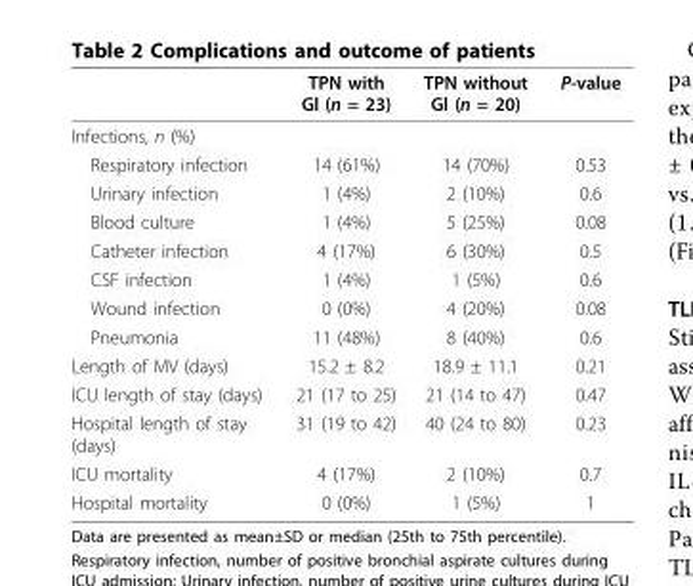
<table><thead><tr><td></td><td>TPN with Gl (n = 23)</td><td>TPN without Gl (n = 20)</td><td>P-value</td></tr></thead><tbody><tr><td colspan="4">Infections, n (%)</td></tr><tr><td>Respiratory infection</td><td>14 (61%)</td><td>14 (70%)</td><td>0.53</td></tr><tr><td>Urinary infection</td><td>1 (4%)</td><td>2 (10%)</td><td>0.6</td></tr><tr><td>Blood culture</td><td>1 (4%)</td><td>5 (25%)</td><td>0.08</td></tr><tr><td>Catheter infection</td><td>4 (17%)</td><td>6 (30%)</td><td>0.5</td></tr><tr><td>CSF infection</td><td>1 (4%)</td><td>1 (5%)</td><td>0.6</td></tr><tr><td>Wound infection</td><td>0 (0%)</td><td>4 (20%)</td><td>0.08</td></tr><tr><td>Pneumonia</td><td>11 (48%)</td><td>8 (40%)</td><td>0.6</td></tr><tr><td>Length of MV (days)</td><td>15.2 ± 8.2</td><td>18.9 ± 11.1</td><td>0.21</td></tr><tr><td>ICU length of stay (days)</td><td>21 (17 to 25)</td><td>21 (14 to 47)</td><td>0.47</td></tr><tr><td>Hospital length of stay (days)</td><td>31 (19 to 42)</td><td>40 (24 to 80)</td><td>0.23</td></tr><tr><td>ICU mortality</td><td>4 (17%)</td><td>2 (10%)</td><td>0.7</td></tr><tr><td>Hospital mortality</td><td>0 (0%)</td><td>1 (5%)</td><td>1</td></tr></tbody></table>